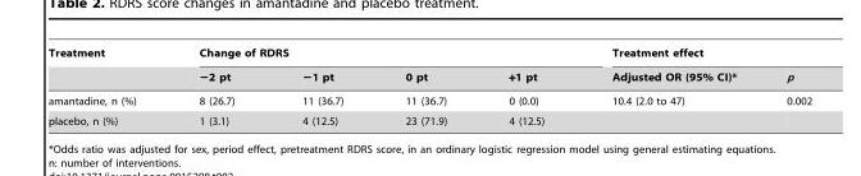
<table><thead><tr><td rowspan="2">Treatment</td><td colspan="4">Change of RDRS</td><td colspan="2">Treatment effect</td></tr><tr><td>−2 pt</td><td>−1 pt</td><td>0 pt</td><td>+1 pt</td><td>Adjusted OR (95% CI)*</td><td>p</td></tr></thead><tbody><tr><td>amantadine, n (%)</td><td>8 (26.7)</td><td>11 (36.7)</td><td>11 (36.7)</td><td>0 (0.0)</td><td>10.4 (2.0 to 47)</td><td>0.002</td></tr><tr><td>placebo, n (%)</td><td>1 (3.1)</td><td>4 (12.5)</td><td>23 (71.9)</td><td>4 (12.5)</td><td></td><td></td></tr></tbody></table>